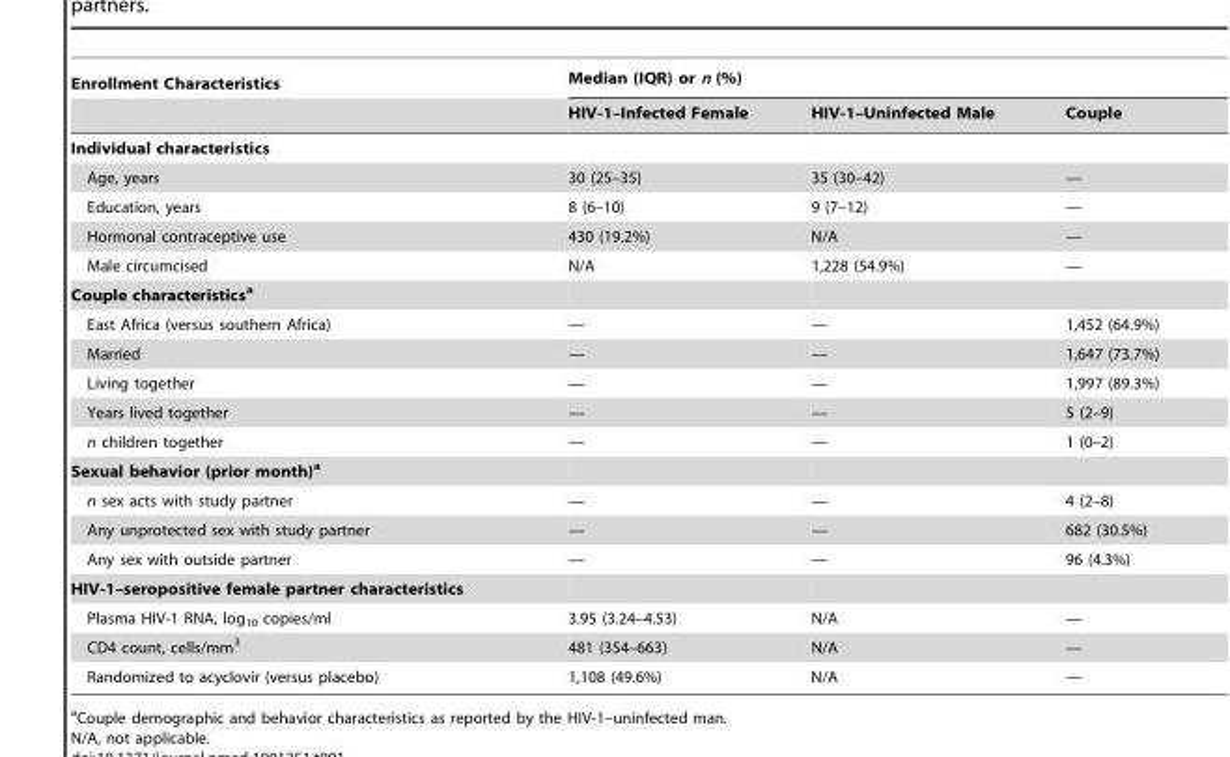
<table><thead><tr><td rowspan="2">Enrollment Characteristics</td><td colspan="3">Median (IQR) or n (%)</td></tr><tr><td>HIV-1–Infected Female</td><td>HIV-1–Uninfected Male</td><td>Couple</td></tr></thead><tbody><tr><td colspan="4">Individual characteristics</td></tr><tr><td>Age, years</td><td>30 (25–35)</td><td>35 (30–42)</td><td>—</td></tr><tr><td>Education, years</td><td>8 (6–10)</td><td>9 (7–12)</td><td>—</td></tr><tr><td>Hormonal contraceptive use</td><td>430 (19.2%)</td><td>N/A</td><td>—</td></tr><tr><td>Male circumcised</td><td>N/A</td><td>1,228 (54.9%)</td><td>—</td></tr><tr><td colspan="4">Couple characteristicsa</td></tr><tr><td>East Africa (versus southern Africa)</td><td>—</td><td>—</td><td>1,452 (64.9%)</td></tr><tr><td>Married</td><td>—</td><td>—</td><td>1,647 (73.7%)</td></tr><tr><td>Living together</td><td>—</td><td>—</td><td>1,997 (89.3%)</td></tr><tr><td>Years lived together</td><td>—</td><td>—</td><td>5 (2–9)</td></tr><tr><td>n children together</td><td>—</td><td>—</td><td>1 (0–2)</td></tr><tr><td colspan="4">Sexual behavior (prior month)a</td></tr><tr><td>n sex acts with study partner</td><td>—</td><td>—</td><td>4 (2–8)</td></tr><tr><td>Any unprotected sex with study partner</td><td>—</td><td>—</td><td>682 (30.5%)</td></tr><tr><td>Any sex with outside partner</td><td>—</td><td>—</td><td>96 (4.3%)</td></tr><tr><td colspan="4">HIV-1–seropositive female partner characteristics</td></tr><tr><td>Plasma HIV-1 RNA, log<sub>10</sub> copies/ml</td><td>3.95 (3.24–4.53)</td><td>N/A</td><td>—</td></tr><tr><td>CD4 count, cells/mm<sup>3</sup></td><td>481 (354–663)</td><td>N/A</td><td>—</td></tr><tr><td>Randomized to acyclovir (versus placebo)</td><td>1,108 (49.6%)</td><td>N/A</td><td>—</td></tr></tbody></table>